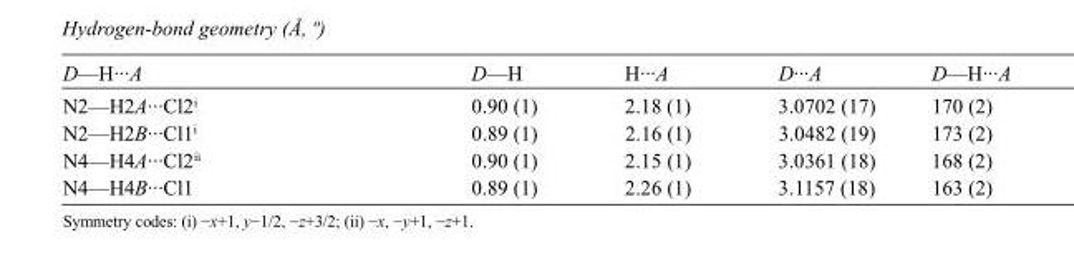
<table><tbody><tr><td>D—H···A</td><td>D—H</td><td>H···A</td><td>D···A</td><td>D—H···A</td></tr><tr><td>N2—H2A···Cl2<sup>i</sup></td><td>0.90 (1)</td><td>2.18 (1)</td><td>3.0702 (17)</td><td>170 (2)</td></tr><tr><td>N2—H2B···Cl1<sup>i</sup></td><td>0.89 (1)</td><td>2.16 (1)</td><td>3.0482 (19)</td><td>173 (2)</td></tr><tr><td>N4—H4A···Cl2<sup>ii</sup></td><td>0.90 (1)</td><td>2.15 (1)</td><td>3.0361 (18)</td><td>168 (2)</td></tr><tr><td>N4—H4B···Cl1</td><td>0.89 (1)</td><td>2.26 (1)</td><td>3.1157 (18)</td><td>163 (2)</td></tr></tbody></table>